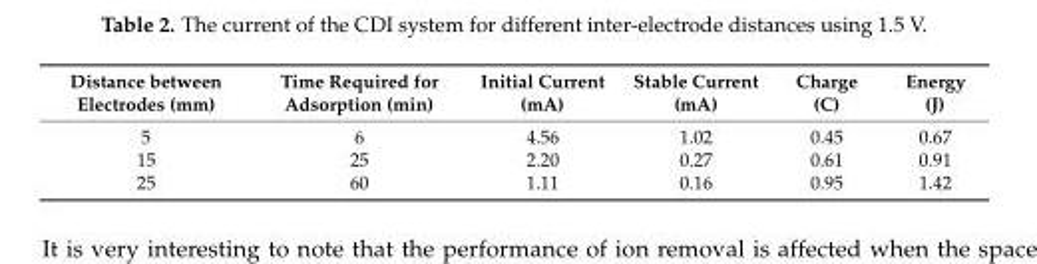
<table><thead><tr><td>Distance between Electrodes (mm)</td><td>Time Required for Adsorption (min)</td><td>Initial Current (mA)</td><td>Stable Current (mA)</td><td>Charge (C)</td><td>Energy (J)</td></tr></thead><tbody><tr><td>5</td><td>6</td><td>4.56</td><td>1.02</td><td>0.45</td><td>0.67</td></tr><tr><td>15</td><td>25</td><td>2.20</td><td>0.27</td><td>0.61</td><td>0.91</td></tr><tr><td>25</td><td>60</td><td>1.11</td><td>0.16</td><td>0.95</td><td>1.42</td></tr></tbody></table>